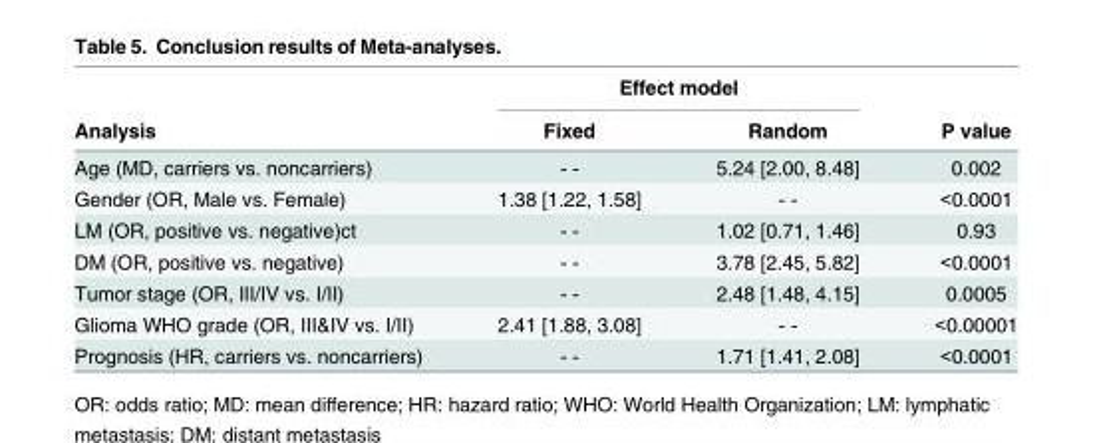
<table><thead><tr><td rowspan="2">Analysis</td><td colspan="2">Effect model</td><td rowspan="2">P value</td></tr><tr><td>Fixed</td><td>Random</td></tr></thead><tbody><tr><td>Age (MD, carriers vs. noncarriers)</td><td>- -</td><td>5.24 [2.00, 8.48]</td><td>0.002</td></tr><tr><td>Gender (OR, Male vs. Female)</td><td>1.38 [1.22, 1.58]</td><td>- -</td><td>&lt;0.0001</td></tr><tr><td>LM (OR, positive vs. negative)ct</td><td>- -</td><td>1.02 [0.71, 1.46]</td><td>0.93</td></tr><tr><td>DM (OR, positive vs. negative)</td><td>- -</td><td>3.78 [2.45, 5.82]</td><td>&lt;0.0001</td></tr><tr><td>Tumor stage (OR, III/IV vs. I/II)</td><td>- -</td><td>2.48 [1.48, 4.15]</td><td>0.0005</td></tr><tr><td>Glioma WHO grade (OR, III&amp;IV vs. I/II)</td><td>2.41 [1.88, 3.08]</td><td>- -</td><td>&lt;0.00001</td></tr><tr><td>Prognosis (HR, carriers vs. noncarriers)</td><td>- -</td><td>1.71 [1.41, 2.08]</td><td>&lt;0.0001</td></tr></tbody></table>